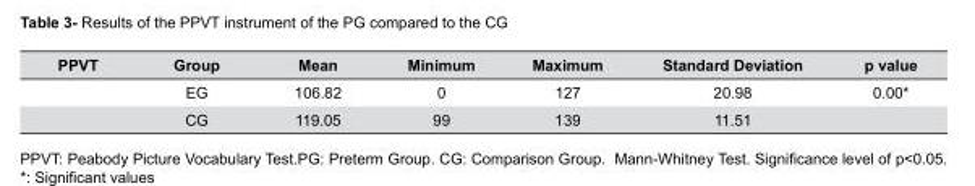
<table><thead><tr><td>PPVT</td><td>Group</td><td>Mean</td><td>Minimum</td><td>Maximum</td><td>Standard Deviation</td><td>p value</td></tr></thead><tbody><tr><td></td><td>EG</td><td>106.82</td><td>0</td><td>127</td><td>20.98</td><td>0.00*</td></tr><tr><td></td><td>CG</td><td>119.05</td><td>99</td><td>139</td><td>11.51</td><td></td></tr></tbody></table>